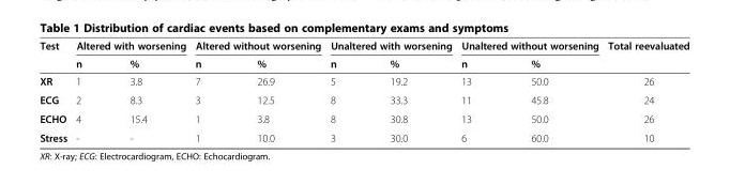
<table><thead><tr><td rowspan="2">Test</td><td colspan="2">Altered with worsening</td><td colspan="2">Altered without worsening</td><td colspan="2">Unaltered with worsening</td><td colspan="2">Unaltered without worsening</td><td rowspan="2">Total reevaluated</td></tr><tr><td>n</td><td>%</td><td>n</td><td>%</td><td>n</td><td>%</td><td>n</td><td>%</td></tr></thead><tbody><tr><td>XR</td><td>1</td><td>3.8</td><td>7</td><td>26.9</td><td>5</td><td>19.2</td><td>13</td><td>50.0</td><td>26</td></tr><tr><td>ECG</td><td>2</td><td>8.3</td><td>3</td><td>12.5</td><td>8</td><td>33.3</td><td>11</td><td>45.8</td><td>24</td></tr><tr><td>ECHO</td><td>4</td><td>15.4</td><td>1</td><td>3.8</td><td>8</td><td>30.8</td><td>13</td><td>50.0</td><td>26</td></tr><tr><td>Stress</td><td>-</td><td>-</td><td>1</td><td>10.0</td><td>3</td><td>30.0</td><td>6</td><td>60.0</td><td>10</td></tr></tbody></table>